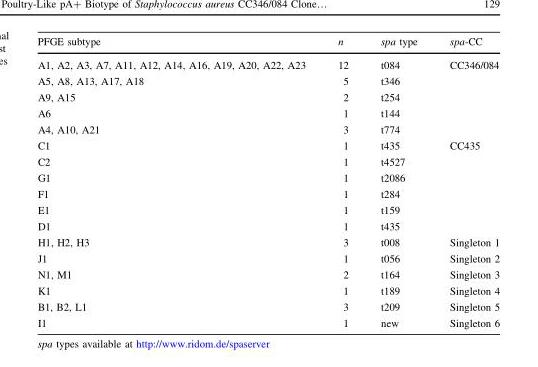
<table><thead><tr><td>PFGE subtype</td><td>n</td><td>spa type</td><td>spa-CC</td></tr></thead><tbody><tr><td>A1, A2, A3, A7, A11, A12, A14, A16, A19, A20, A22, A23</td><td>12</td><td>t084</td><td>CC346/084</td></tr><tr><td>A5, A8, A13, A17, A18</td><td>5</td><td>t346</td><td></td></tr><tr><td>A9, A15</td><td>2</td><td>t254</td><td></td></tr><tr><td>A6</td><td>1</td><td>t144</td><td></td></tr><tr><td>A4, A10, A21</td><td>3</td><td>t774</td><td></td></tr><tr><td>C1</td><td>1</td><td>t435</td><td>CC435</td></tr><tr><td>C2</td><td>1</td><td>t4527</td><td></td></tr><tr><td>G1</td><td>1</td><td>t2086</td><td></td></tr><tr><td>F1</td><td>1</td><td>t284</td><td></td></tr><tr><td>E1</td><td>1</td><td>t159</td><td></td></tr><tr><td>D1</td><td>1</td><td>t435</td><td></td></tr><tr><td>H1, H2, H3</td><td>3</td><td>t008</td><td>Singleton 1</td></tr><tr><td>J1</td><td>1</td><td>t056</td><td>Singleton 2</td></tr><tr><td>N1, M1</td><td>2</td><td>t164</td><td>Singleton 3</td></tr><tr><td>K1</td><td>1</td><td>t189</td><td>Singleton 4</td></tr><tr><td>B1, B2, L1</td><td>3</td><td>t209</td><td>Singleton 5</td></tr><tr><td>I1</td><td>1</td><td>new</td><td>Singleton 6</td></tr></tbody></table>